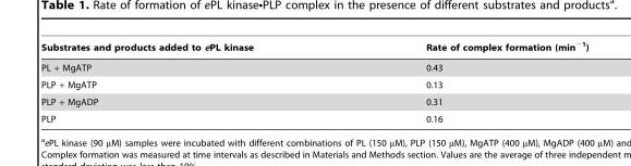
<table><thead><tr><td>Substrates and products added to ePL kinase</td><td>Rate of complex formation (min<sup>−1</sup>)</td></tr></thead><tbody><tr><td>PL + MgATP</td><td>0.43</td></tr><tr><td>PLP + MgATP</td><td>0.13</td></tr><tr><td>PLP + MgADP</td><td>0.31</td></tr><tr><td>PLP</td><td>0.16</td></tr></tbody></table>